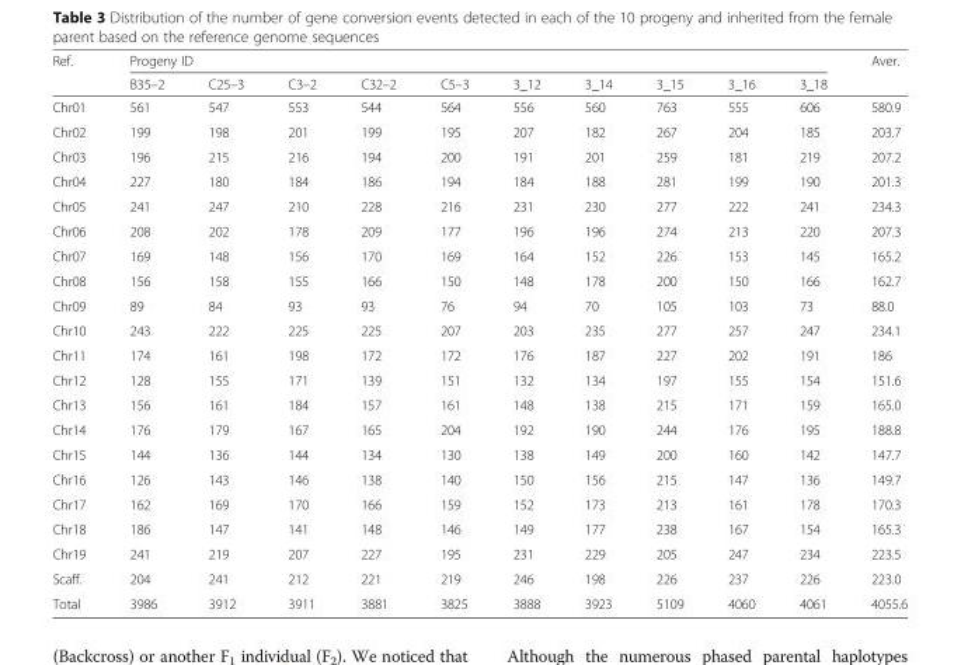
<table><thead><tr><td rowspan="2">Ref.</td><td colspan="10">Progeny ID</td><td rowspan="2">Aver.</td></tr><tr><td>B35–2</td><td>C25–3</td><td>C3–2</td><td>C32–2</td><td>C5–3</td><td>3_12</td><td>3_14</td><td>3_15</td><td>3_16</td><td>3_18</td></tr></thead><tbody><tr><td>Chr01</td><td>561</td><td>547</td><td>553</td><td>544</td><td>564</td><td>556</td><td>560</td><td>763</td><td>555</td><td>606</td><td>580.9</td></tr><tr><td>Chr02</td><td>199</td><td>198</td><td>201</td><td>199</td><td>195</td><td>207</td><td>182</td><td>267</td><td>204</td><td>185</td><td>203.7</td></tr><tr><td>Chr03</td><td>196</td><td>215</td><td>216</td><td>194</td><td>200</td><td>191</td><td>201</td><td>259</td><td>181</td><td>219</td><td>207.2</td></tr><tr><td>Chr04</td><td>227</td><td>180</td><td>184</td><td>186</td><td>194</td><td>184</td><td>188</td><td>281</td><td>199</td><td>190</td><td>201.3</td></tr><tr><td>Chr05</td><td>241</td><td>247</td><td>210</td><td>228</td><td>216</td><td>231</td><td>230</td><td>277</td><td>222</td><td>241</td><td>234.3</td></tr><tr><td>Chr06</td><td>208</td><td>202</td><td>178</td><td>209</td><td>177</td><td>196</td><td>196</td><td>274</td><td>213</td><td>220</td><td>207.3</td></tr><tr><td>Chr07</td><td>169</td><td>148</td><td>156</td><td>170</td><td>169</td><td>164</td><td>152</td><td>226</td><td>153</td><td>145</td><td>165.2</td></tr><tr><td>Chr08</td><td>156</td><td>158</td><td>155</td><td>166</td><td>150</td><td>148</td><td>178</td><td>200</td><td>150</td><td>166</td><td>162.7</td></tr><tr><td>Chr09</td><td>89</td><td>84</td><td>93</td><td>93</td><td>76</td><td>94</td><td>70</td><td>105</td><td>103</td><td>73</td><td>88.0</td></tr><tr><td>Chr10</td><td>243</td><td>222</td><td>225</td><td>225</td><td>207</td><td>203</td><td>235</td><td>277</td><td>257</td><td>247</td><td>234.1</td></tr><tr><td>Chr11</td><td>174</td><td>161</td><td>198</td><td>172</td><td>172</td><td>176</td><td>187</td><td>227</td><td>202</td><td>191</td><td>186</td></tr><tr><td>Chr12</td><td>128</td><td>155</td><td>171</td><td>139</td><td>151</td><td>132</td><td>134</td><td>197</td><td>155</td><td>154</td><td>151.6</td></tr><tr><td>Chr13</td><td>156</td><td>161</td><td>184</td><td>157</td><td>161</td><td>148</td><td>138</td><td>215</td><td>171</td><td>159</td><td>165.0</td></tr><tr><td>Chr14</td><td>176</td><td>179</td><td>167</td><td>165</td><td>204</td><td>192</td><td>190</td><td>244</td><td>176</td><td>195</td><td>188.8</td></tr><tr><td>Chr15</td><td>144</td><td>136</td><td>144</td><td>134</td><td>130</td><td>138</td><td>149</td><td>200</td><td>160</td><td>142</td><td>147.7</td></tr><tr><td>Chr16</td><td>126</td><td>143</td><td>146</td><td>138</td><td>140</td><td>150</td><td>156</td><td>215</td><td>147</td><td>136</td><td>149.7</td></tr><tr><td>Chr17</td><td>162</td><td>169</td><td>170</td><td>166</td><td>159</td><td>152</td><td>173</td><td>213</td><td>161</td><td>178</td><td>170.3</td></tr><tr><td>Chr18</td><td>186</td><td>147</td><td>141</td><td>148</td><td>146</td><td>149</td><td>177</td><td>238</td><td>167</td><td>154</td><td>165.3</td></tr><tr><td>Chr19</td><td>241</td><td>219</td><td>207</td><td>227</td><td>195</td><td>231</td><td>229</td><td>205</td><td>247</td><td>234</td><td>223.5</td></tr><tr><td>Scaff.</td><td>204</td><td>241</td><td>212</td><td>221</td><td>219</td><td>246</td><td>198</td><td>226</td><td>237</td><td>226</td><td>223.0</td></tr><tr><td>Total</td><td>3986</td><td>3912</td><td>3911</td><td>3881</td><td>3825</td><td>3888</td><td>3923</td><td>5109</td><td>4060</td><td>4061</td><td>4055.6</td></tr></tbody></table>